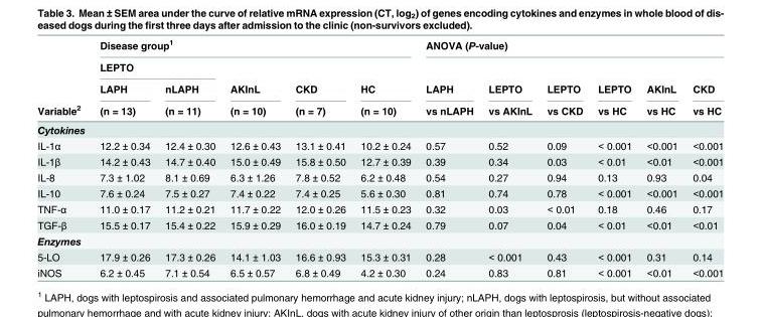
<table><thead><tr><td rowspan="4">Variable<sup>2</sup></td><td colspan="5">Disease group<sup>1</sup></td><td colspan="6">ANOVA (P-value)</td></tr><tr><td colspan="2">LEPTO</td><td rowspan="3">AKInL (n = 10)</td><td rowspan="3">CKD (n = 7)</td><td rowspan="3">HC (n = 10)</td><td rowspan="3">LAPH vs nLAPH</td><td rowspan="3">LEPTO vs AKInL</td><td rowspan="3">LEPTO vs CKD</td><td rowspan="3">LEPTO vs HC</td><td rowspan="3">AKInL vs HC</td><td rowspan="3">CKD vs HC</td></tr><tr><td rowspan="2">LAPH (n = 13)</td><td rowspan="2">nLAPH (n = 11)</td></tr><tr></tr></thead><tbody><tr><td colspan="12">Cytokines</td></tr><tr><td>IL-1α</td><td>12.2 ± 0.34</td><td>12.4 ± 0.30</td><td>12.6 ± 0.43</td><td>13.1 ± 0.41</td><td>10.2 ± 0.24</td><td>0.57</td><td>0.52</td><td>0.09</td><td>&lt; 0.001</td><td>&lt;0.001</td><td>&lt;0.001</td></tr><tr><td>IL-1β</td><td>14.2 ± 0.43</td><td>14.7 ± 0.40</td><td>15.0 ± 0.49</td><td>15.8 ± 0.50</td><td>12.7 ± 0.39</td><td>0.39</td><td>0.34</td><td>0.03</td><td>&lt; 0.01</td><td>&lt;0.01</td><td>&lt;0.001</td></tr><tr><td>IL-8</td><td>7.3 ± 1.02</td><td>8.1 ± 0.69</td><td>6.3 ± 1.26</td><td>7.8 ± 0.52</td><td>6.2 ± 0.48</td><td>0.54</td><td>0.27</td><td>0.94</td><td>0.13</td><td>0.93</td><td>0.04</td></tr><tr><td>IL-10</td><td>7.6 ± 0.24</td><td>7.5 ± 0.27</td><td>7.4 ± 0.22</td><td>7.4 ± 0.25</td><td>5.6 ± 0.30</td><td>0.81</td><td>0.74</td><td>0.78</td><td>&lt; 0.001</td><td>&lt;0.001</td><td>&lt;0.001</td></tr><tr><td>TNF-α</td><td>11.0 ± 0.17</td><td>11.2 ± 0.21</td><td>11.7 ± 0.22</td><td>12.0 ± 0.26</td><td>11.5 ± 0.23</td><td>0.32</td><td>0.03</td><td>&lt; 0.01</td><td>0.18</td><td>0.46</td><td>0.17</td></tr><tr><td>TGF-β</td><td>15.5 ± 0.17</td><td>15.4 ± 0.22</td><td>15.9 ± 0.29</td><td>16.0 ± 0.19</td><td>14.7 ± 0.24</td><td>0.79</td><td>0.07</td><td>0.04</td><td>&lt; 0.01</td><td>&lt;0.01</td><td>&lt;0.01</td></tr><tr><td colspan="12">Enzymes</td></tr><tr><td>5-LO</td><td>17.9 ± 0.26</td><td>17.3 ± 0.26</td><td>14.1 ± 1.03</td><td>16.6 ± 0.93</td><td>15.3 ± 0.31</td><td>0.28</td><td>&lt; 0.001</td><td>0.43</td><td>&lt; 0.001</td><td>0.31</td><td>0.14</td></tr><tr><td>iNOS</td><td>6.2 ± 0.45</td><td>7.1 ± 0.54</td><td>6.5 ± 0.57</td><td>6.8 ± 0.49</td><td>4.2 ± 0.30</td><td>0.24</td><td>0.83</td><td>0.81</td><td>&lt; 0.001</td><td>&lt;0.01</td><td>&lt;0.001</td></tr></tbody></table>